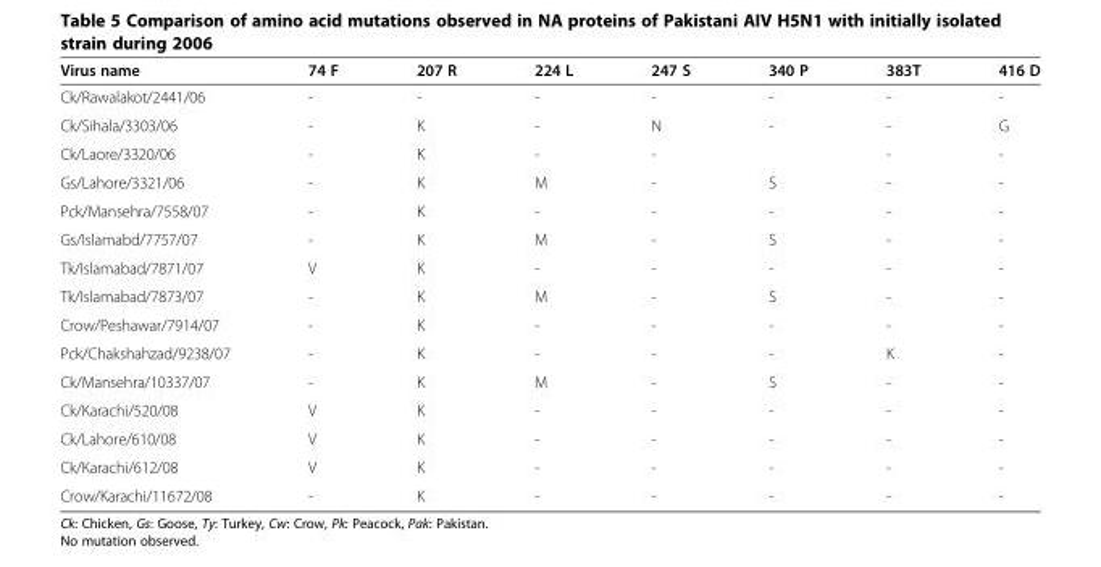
<table><thead><tr><td>Virus name</td><td>74 F</td><td>207 R</td><td>224 L</td><td>247 S</td><td>340 P</td><td>383T</td><td>416 D</td></tr></thead><tbody><tr><td>Ck/Rawalakot/2441/06</td><td>-</td><td>-</td><td>-</td><td>-</td><td>-</td><td>-</td><td>-</td></tr><tr><td>Ck/Sihala/3303/06</td><td>-</td><td>K</td><td>-</td><td>N</td><td>-</td><td>-</td><td>G</td></tr><tr><td>Ck/Laore/3320/06</td><td>-</td><td>K</td><td>-</td><td>-</td><td></td><td>-</td><td>-</td></tr><tr><td>Gs/Lahore/3321/06</td><td>-</td><td>K</td><td>M</td><td>-</td><td>S</td><td>-</td><td>-</td></tr><tr><td>Pck/Mansehra/7558/07</td><td>-</td><td>K</td><td>-</td><td>-</td><td>-</td><td>-</td><td>-</td></tr><tr><td>Gs/Islamabd/7757/07</td><td>-</td><td>K</td><td>M</td><td>-</td><td>S</td><td>-</td><td>-</td></tr><tr><td>Tk/Islamabad/7871/07</td><td>V</td><td>K</td><td>-</td><td>-</td><td>-</td><td>-</td><td>-</td></tr><tr><td>Tk/Islamabad/7873/07</td><td>-</td><td>K</td><td>M</td><td>-</td><td>S</td><td>-</td><td>-</td></tr><tr><td>Crow/Peshawar/7914/07</td><td>-</td><td>K</td><td>-</td><td>-</td><td>-</td><td>-</td><td>-</td></tr><tr><td>Pck/Chakshahzad/9238/07</td><td>-</td><td>K</td><td>-</td><td>-</td><td>-</td><td>K</td><td>-</td></tr><tr><td>Ck/Mansehra/10337/07</td><td>-</td><td>K</td><td>M</td><td>-</td><td>S</td><td>-</td><td>-</td></tr><tr><td>Ck/Karachi/520/08</td><td>V</td><td>K</td><td>-</td><td>-</td><td>-</td><td>-</td><td>-</td></tr><tr><td>Ck/Lahore/610/08</td><td>V</td><td>K</td><td>-</td><td>-</td><td>-</td><td>-</td><td>-</td></tr><tr><td>Ck/Karachi/612/08</td><td>V</td><td>K</td><td>-</td><td>-</td><td>-</td><td>-</td><td>-</td></tr><tr><td>Crow/Karachi/11672/08</td><td>-</td><td>K</td><td>-</td><td>-</td><td>-</td><td>-</td><td>-</td></tr></tbody></table>